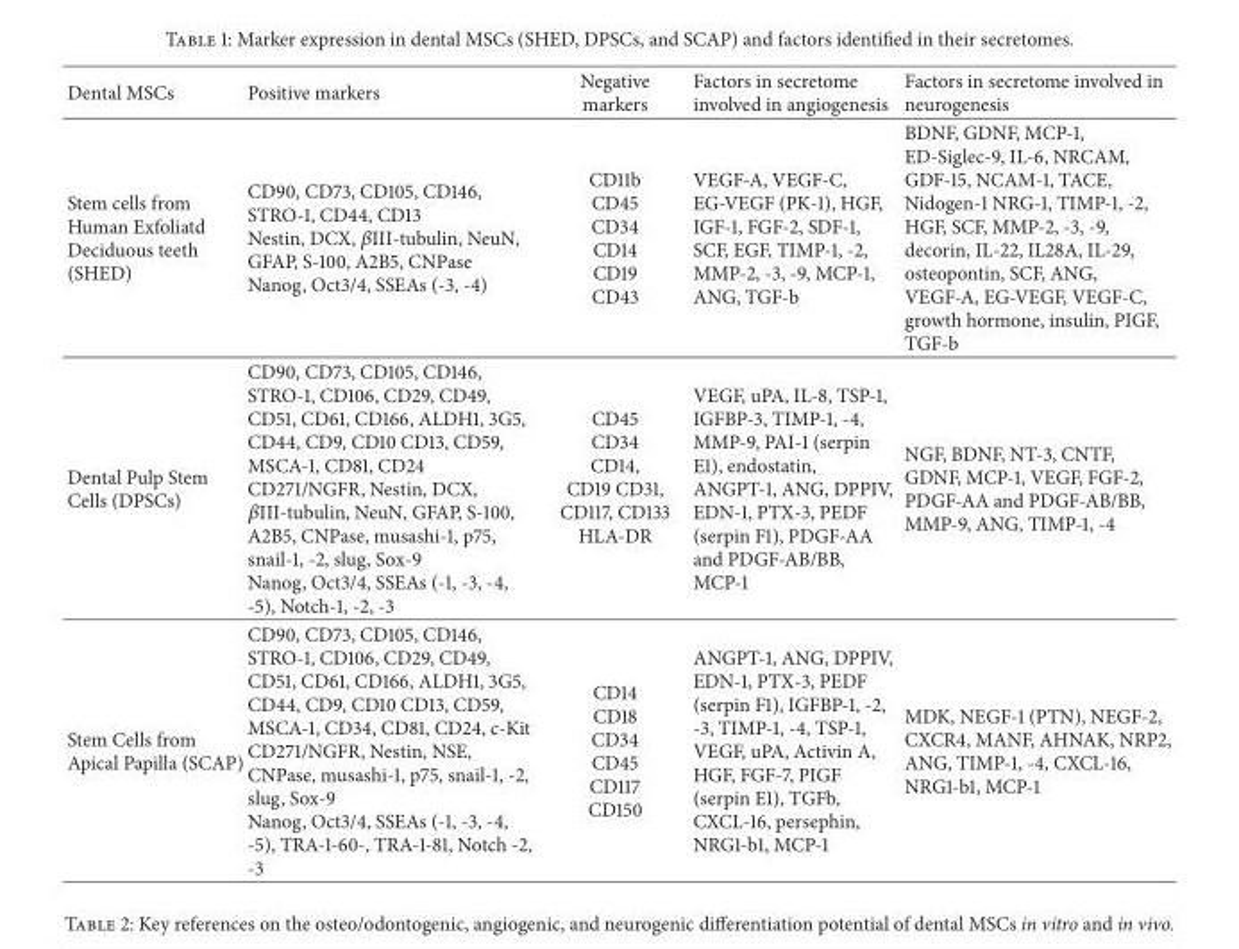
<table><thead><tr><td>Dental MSCs</td><td>Positive markers</td><td>Negative markers</td><td>Factors in secretome involved in angiogenesis</td><td>Factors in secretome involved in neurogenesis</td></tr></thead><tbody><tr><td>Stem cells from Human Exfoliatd Deciduous teeth (SHED)</td><td>CD90, CD73, CD105, CD146, STRO-1, CD44, CD13 Nestin, DCX, 𝛽ΙΙΙ-tubulin, NeuN, GFAP, S-100, A2B5, CNPase Nanog, Oct3/4, SSEAs (-3, -4)</td><td>CD11b CD45 CD34 CD14 CD19 CD43</td><td>VEGF-A, VEGF-C, EG-VEGF (PK-1), HGF, IGF-1, FGF-2, SDF-1, SCF, EGF, TIMP-1, -2, MMP-2, -3, -9, MCP-1, ANG, TGF-b</td><td>BDNF, GDNF, MCP-1, ED-Siglec-9, IL-6, NRCAM, GDF-15, NCAM-1, TACE, Nidogen-1 NRG-1, TIMP-1, -2, HGF, SCF, MMP-2, -3, -9, decorin, IL-22, IL28A, IL-29, osteopontin, SCF, ANG, VEGF-A, EG-VEGF, VEGF-C, growth hormone, insulin, PIGF, TGF-b</td></tr><tr><td>Dental Pulp Stem Cells (DPSCs)</td><td>CD90, CD73, CD105, CD146, STRO-1, CD106, CD29, CD49, CD51, CD61, CD166, ALDH1, 3G5, CD44, CD9, CD10 CD13, CD59, MSCA-1, CD81, CD24 CD271/NGFR, Nestin, DCX, 𝛽ΙΙΙ-tubulin, NeuN, GFAP, S-100, A2B5, CNPase, musashi-1, p75, snail-1, -2, slug, Sox-9 Nanog, Oct3/4, SSEAs (-1, -3, -4, -5), Notch-1, -2, -3</td><td>CD45 CD34 CD14, CD19 CD31, CD117, CD133 HLA-DR</td><td>VEGF, uPA, IL-8, TSP-1, IGFBP-3, TIMP-1, -4, MMP-9, PAI-1 (serpin E1), endostatin, ANGPT-1, ANG, DPPIV, EDN-1, PTX-3, PEDF (serpin F1), PDGF-AA and PDGF-AB/BB, MCP-1</td><td>NGF, BDNF, NT-3, CNTF, GDNF, MCP-1, VEGF, FGF-2, PDGF-AA and PDGF-AB/BB, MMP-9, ANG, TIMP-1, -4</td></tr><tr><td>Stem Cells from Apical Papilla (SCAP)</td><td>CD90, CD73, CD105, CD146, STRO-1, CD106, CD29, CD49, CD51, CD61, CD166, ALDH1, 3G5, CD44, CD9, CD10 CD13, CD59, MSCA-1, CD34, CD81, CD24, c-Kit CD271/NGFR, Nestin, NSE, CNPase, musashi-1, p75, snail-1, -2, slug, Sox-9 Nanog, Oct3/4, SSEAs (-1, -3, -4, -5), TRA-1-60-, TRA-1-81, Notch -2, -3</td><td>CD14 CD18 CD34 CD45 CD117 CD150</td><td>ANGPT-1, ANG, DPPIV, EDN-1, PTX-3, PEDF (serpin F1), IGFBP-1, -2, -3, TIMP-1, -4, TSP-1, VEGF, uPA, Activin A, HGF, FGF-7, PIGF (serpin E1), TGFb, CXCL-16, persephin, NRG1-b1, MCP-1</td><td>MDK, NEGF-1 (PTN), NEGF-2, CXCR4, MANF, AHNAK, NRP2, ANG, TIMP-1, -4, CXCL-16, NRG1-b1, MCP-1</td></tr></tbody></table>